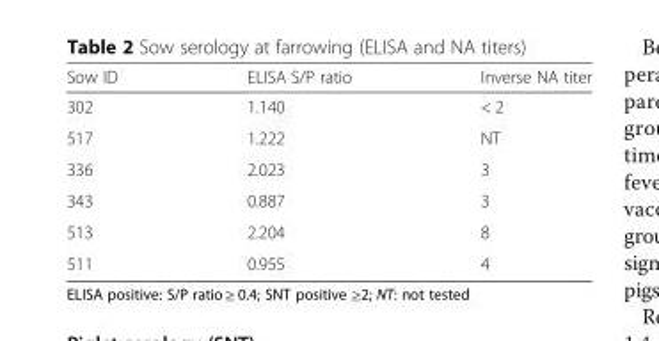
<table><thead><tr><td>Sow ID</td><td>ELISA S/P ratio</td><td>Inverse NA titer</td></tr></thead><tbody><tr><td>302</td><td>1.140</td><td>&lt; 2</td></tr><tr><td>517</td><td>1.222</td><td>NT</td></tr><tr><td>336</td><td>2.023</td><td>3</td></tr><tr><td>343</td><td>0.887</td><td>3</td></tr><tr><td>513</td><td>2.204</td><td>8</td></tr><tr><td>511</td><td>0.955</td><td>4</td></tr></tbody></table>